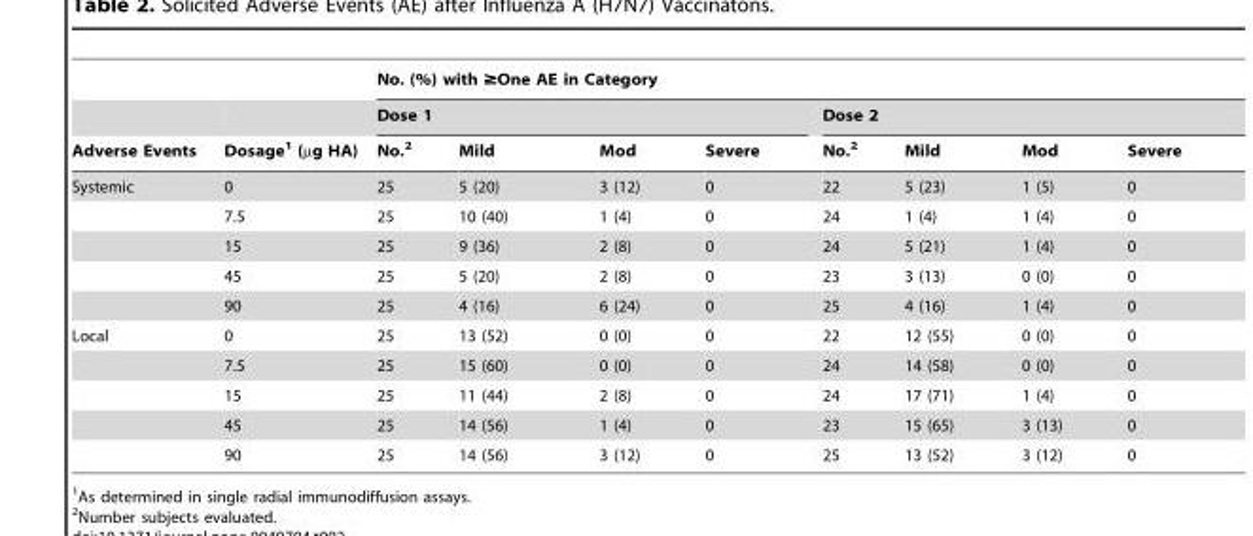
<table><thead><tr><td rowspan="3">Adverse Events</td><td rowspan="3">Dosage<sup>1</sup> (µg HA)</td><td colspan="8">No. (%) with ≥One AE in Category</td></tr><tr><td colspan="4">Dose 1</td><td colspan="4">Dose 2</td></tr><tr><td>No.<sup>2</sup></td><td>Mild</td><td>Mod</td><td>Severe</td><td>No.<sup>2</sup></td><td>Mild</td><td>Mod</td><td>Severe</td></tr></thead><tbody><tr><td rowspan="5">Systemic</td><td>0</td><td>25</td><td>5 (20)</td><td>3 (12)</td><td>0</td><td>22</td><td>5 (23)</td><td>1 (5)</td><td>0</td></tr><tr><td>7.5</td><td>25</td><td>10 (40)</td><td>1 (4)</td><td>0</td><td>24</td><td>1 (4)</td><td>1 (4)</td><td>0</td></tr><tr><td>15</td><td>25</td><td>9 (36)</td><td>2 (8)</td><td>0</td><td>24</td><td>5 (21)</td><td>1 (4)</td><td>0</td></tr><tr><td>45</td><td>25</td><td>5 (20)</td><td>2 (8)</td><td>0</td><td>23</td><td>3 (13)</td><td>0 (0)</td><td>0</td></tr><tr><td>90</td><td>25</td><td>4 (16)</td><td>6 (24)</td><td>0</td><td>25</td><td>4 (16)</td><td>1 (4)</td><td>0</td></tr><tr><td rowspan="5">Local</td><td>0</td><td>25</td><td>13 (52)</td><td>0 (0)</td><td>0</td><td>22</td><td>12 (55)</td><td>0 (0)</td><td>0</td></tr><tr><td>7.5</td><td>25</td><td>15 (60)</td><td>0 (0)</td><td>0</td><td>24</td><td>14 (58)</td><td>0 (0)</td><td>0</td></tr><tr><td>15</td><td>25</td><td>11 (44)</td><td>2 (8)</td><td>0</td><td>24</td><td>17 (71)</td><td>1 (4)</td><td>0</td></tr><tr><td>45</td><td>25</td><td>14 (56)</td><td>1 (4)</td><td>0</td><td>23</td><td>15 (65)</td><td>3 (13)</td><td>0</td></tr><tr><td>90</td><td>25</td><td>14 (56)</td><td>3 (12)</td><td>0</td><td>25</td><td>13 (52)</td><td>3 (12)</td><td>0</td></tr></tbody></table>